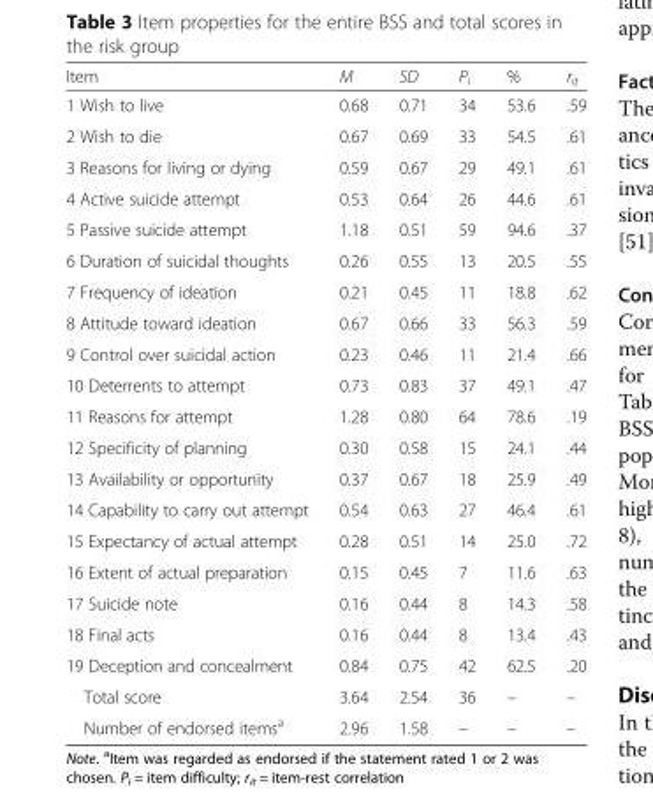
<table><thead><tr><td>Item</td><td>M</td><td>SD</td><td>P<sub>i</sub></td><td>%</td><td>r<sub>it</sub></td></tr></thead><tbody><tr><td>1 Wish to live</td><td>0.68</td><td>0.71</td><td>34</td><td>53.6</td><td>.59</td></tr><tr><td>2 Wish to die</td><td>0.67</td><td>0.69</td><td>33</td><td>54.5</td><td>.61</td></tr><tr><td>3 Reasons for living or dying</td><td>0.59</td><td>0.67</td><td>29</td><td>49.1</td><td>.61</td></tr><tr><td>4 Active suicide attempt</td><td>0.53</td><td>0.64</td><td>26</td><td>44.6</td><td>.61</td></tr><tr><td>5 Passive suicide attempt</td><td>1.18</td><td>0.51</td><td>59</td><td>94.6</td><td>.37</td></tr><tr><td>6 Duration of suicidal thoughts</td><td>0.26</td><td>0.55</td><td>13</td><td>20.5</td><td>.55</td></tr><tr><td>7 Frequency of ideation</td><td>0.21</td><td>0.45</td><td>11</td><td>18.8</td><td>.62</td></tr><tr><td>8 Attitude toward ideation</td><td>0.67</td><td>0.66</td><td>33</td><td>56.3</td><td>.59</td></tr><tr><td>9 Control over suicidal action</td><td>0.23</td><td>0.46</td><td>11</td><td>21.4</td><td>.66</td></tr><tr><td>10 Deterrents to attempt</td><td>0.73</td><td>0.83</td><td>37</td><td>49.1</td><td>.47</td></tr><tr><td>11 Reasons for attempt</td><td>1.28</td><td>0.80</td><td>64</td><td>78.6</td><td>.19</td></tr><tr><td>12 Specificity of planning</td><td>0.30</td><td>0.58</td><td>15</td><td>24.1</td><td>.44</td></tr><tr><td>13 Availability or opportunity</td><td>0.37</td><td>0.67</td><td>18</td><td>25.9</td><td>.49</td></tr><tr><td>14 Capability to carry out attempt</td><td>0.54</td><td>0.63</td><td>27</td><td>46.4</td><td>.61</td></tr><tr><td>15 Expectancy of actual attempt</td><td>0.28</td><td>0.51</td><td>14</td><td>25.0</td><td>.72</td></tr><tr><td>16 Extent of actual preparation</td><td>0.15</td><td>0.45</td><td>7</td><td>11.6</td><td>.63</td></tr><tr><td>17 Suicide note</td><td>0.16</td><td>0.44</td><td>8</td><td>14.3</td><td>.58</td></tr><tr><td>18 Final acts</td><td>0.16</td><td>0.44</td><td>8</td><td>13.4</td><td>.43</td></tr><tr><td>19 Deception and concealment</td><td>0.84</td><td>0.75</td><td>42</td><td>62.5</td><td>.20</td></tr><tr><td>Total score</td><td>3.64</td><td>2.54</td><td>36</td><td>–</td><td>–</td></tr><tr><td>Number of endorsed items<sup>a</sup></td><td>2.96</td><td>1.58</td><td>–</td><td>–</td><td>–</td></tr></tbody></table>